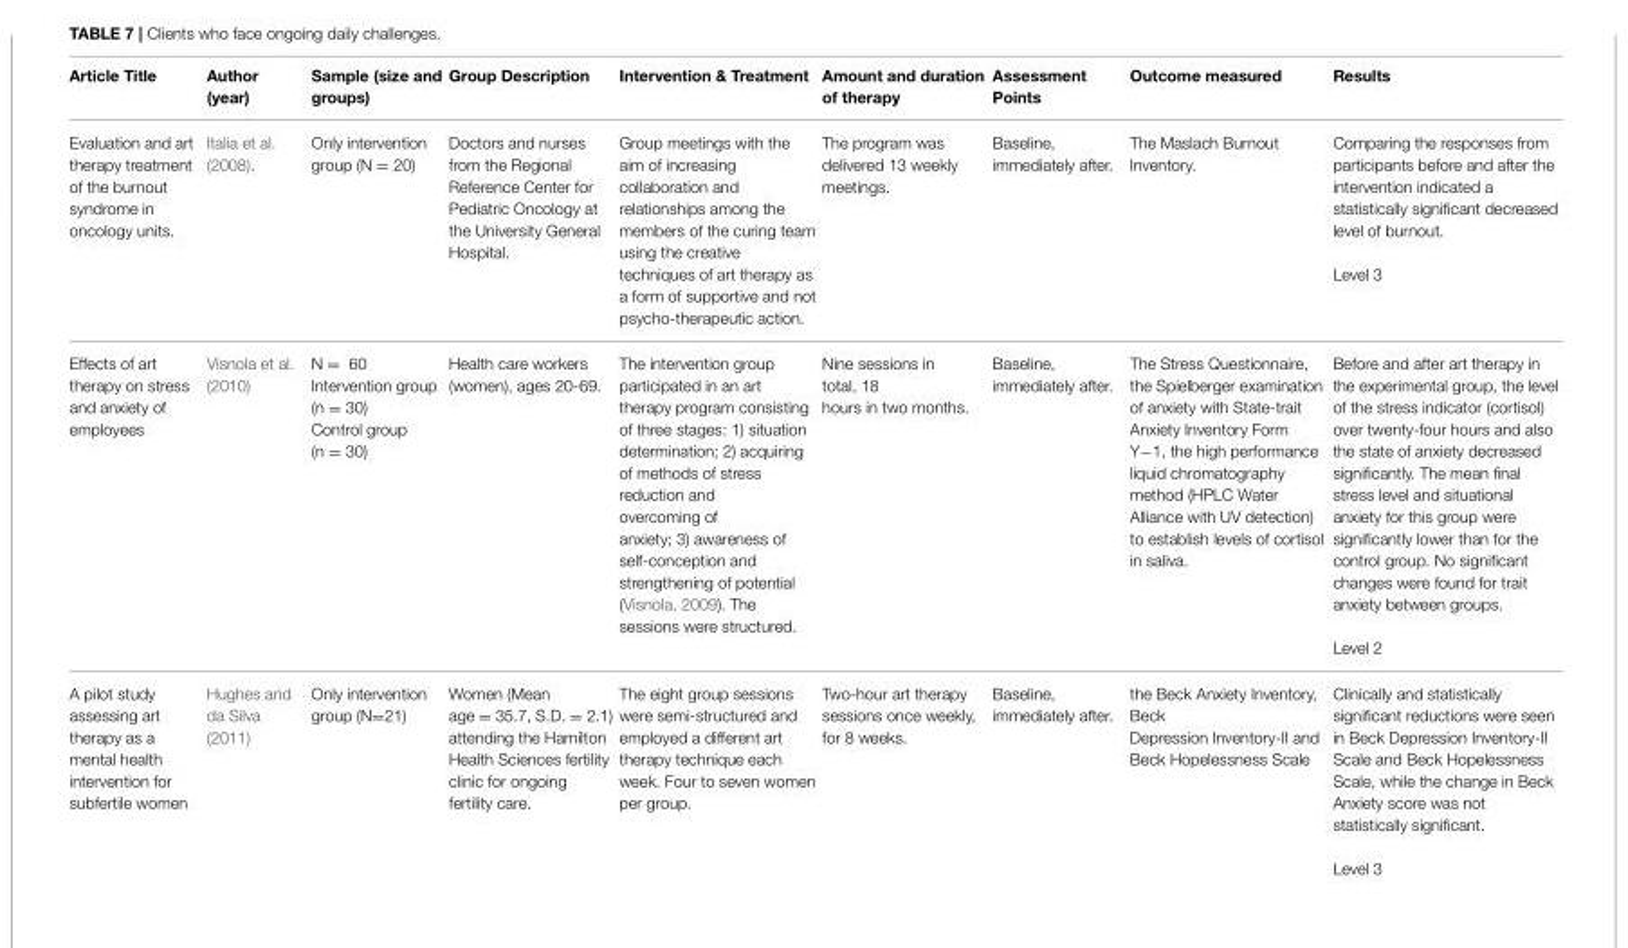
<table><thead><tr><td>Article Title</td><td>Author (year)</td><td>Sample (size and groups)</td><td>Group Description</td><td>Intervention &amp; Treatment</td><td>Amount and duration of therapy</td><td>Assessment Points</td><td>Outcome measured</td><td>Results</td></tr></thead><tbody><tr><td>Evaluation and art therapy treatment of the burnout syndrome in oncology units.</td><td>Italia et al. (2008).</td><td>Only intervention group (N = 20)</td><td>Doctors and nurses from the Regional Reference Center for Pediatric Oncology at the University General Hospital.</td><td>Group meetings with the aim of increasing collaboration and relationships among the members of the curing team using the creative techniques of art therapy as a form of supportive and not psycho-therapeutic action.</td><td>The program was delivered 13 weekly meetings.</td><td>Baseline, immediately after.</td><td>The Maslach Burnout Inventory.</td><td>Comparing the responses from participants before and after the intervention indicated a statistically significant decreased level of burnout. Level 3</td></tr><tr><td>Effects of art therapy on stress and anxiety of employees</td><td>Visnola et al. (2010)</td><td>N = 60 Intervention group (n = 30) Control group (n = 30)</td><td>Health care workers (women), ages 20-69.</td><td>The intervention group participated in an art therapy program consisting of three stages: 1) situation determination; 2) acquiring of methods of stress reduction and overcoming of anxiety; 3) awareness of self-conception and strengthening of potential (Visnola, 2009). The sessions were structured.</td><td>Nine sessions in total, 18 hours in two months.</td><td>Baseline, immediately after.</td><td>The Stress Questionnaire, the Spielberger examination of anxiety with State-trait Anxiety Inventory Form Y−1, the high performance liquid chromatography method (HPLC Water Alliance with UV detection) to establish levels of cortisol in saliva.</td><td>Before and after art therapy in the experimental group, the level of the stress indicator (cortisol) over twenty-four hours and also the state of anxiety decreased significantly. The mean final stress level and situational anxiety for this group were significantly lower than for the control group. No significant changes were found for trait anxiety between groups. Level 2</td></tr><tr><td>A pilot study assessing art therapy as a mental health intervention for subfertile women</td><td>Hughes and da Silva (2011)</td><td>Only intervention group (N=21)</td><td>Women (Mean age = 35.7, S.D. = 2.1) attending the Hamilton Health Sciences fertility clinic for ongoing fertility care.</td><td>The eight group sessions were semi-structured and employed a different art therapy technique each week. Four to seven women per group.</td><td>Two-hour art therapy sessions once weekly, for 8 weeks.</td><td>Baseline, immediately after.</td><td>the Beck Anxiety Inventory, Beck Depression Inventory-II and Beck Hopelessness Scale</td><td>Clinically and statistically significant reductions were seen in Beck Depression Inventory-II Scale and Beck Hopelessness Scale, while the change in Beck Anxiety score was not statistically significant. Level 3</td></tr></tbody></table>